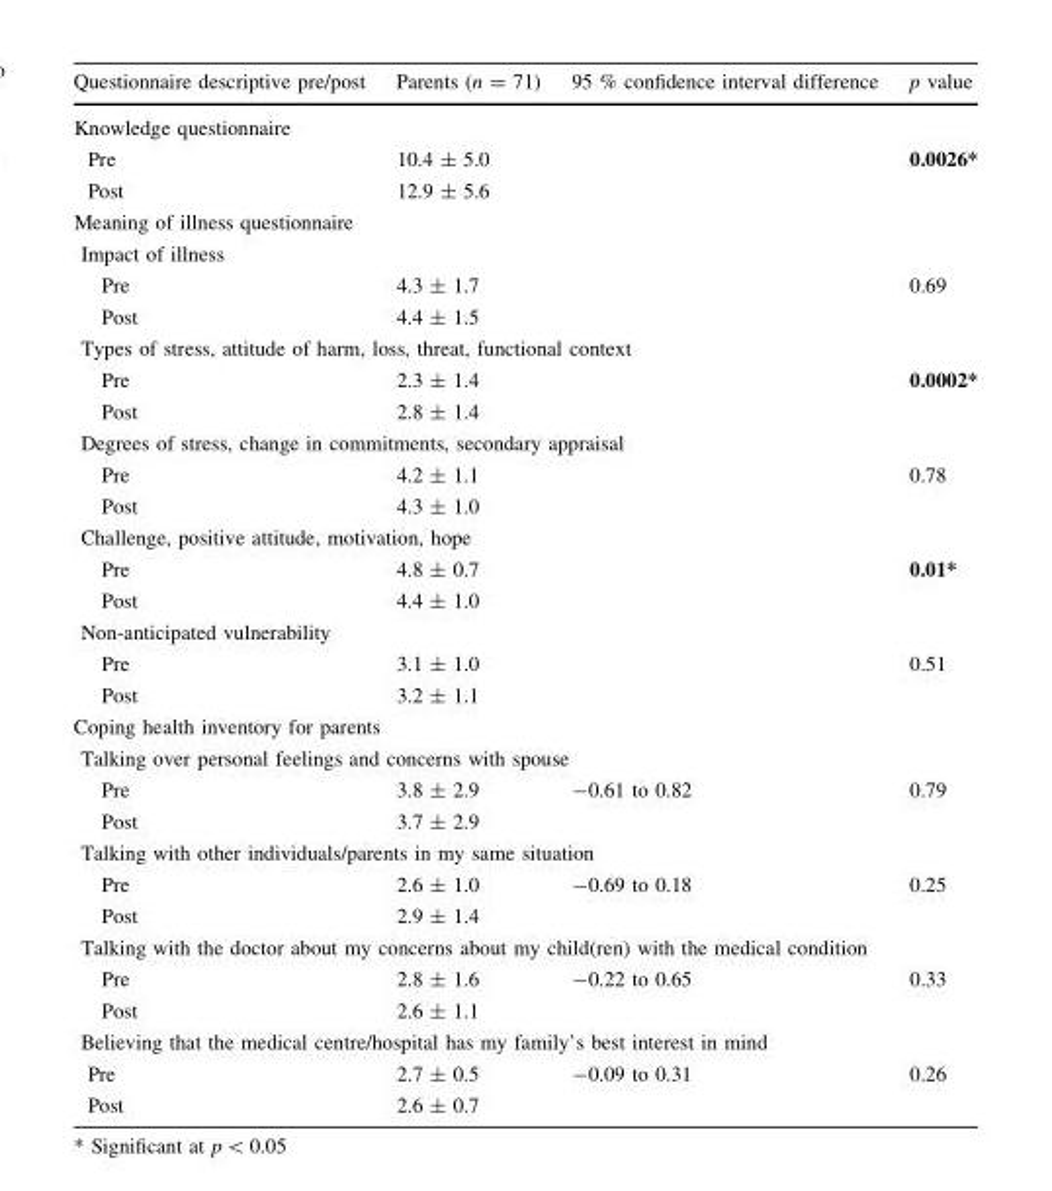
<table><thead><tr><td>Questionnaire descriptive pre/post</td><td>Parents (n = 71)</td><td>95 % confidence interval difference</td><td>p value</td></tr></thead><tbody><tr><td colspan="4">Knowledge questionnaire</td></tr><tr><td>Pre</td><td>10.4 ± 5.0</td><td rowspan="2"></td><td rowspan="2">0.0026*</td></tr><tr><td>Post</td><td>12.9 ± 5.6</td></tr><tr><td colspan="4">Meaning of illness questionnaire</td></tr><tr><td colspan="4">Impact of illness</td></tr><tr><td>Pre</td><td>4.3 ± 1.7</td><td rowspan="2"></td><td rowspan="2">0.69</td></tr><tr><td>Post</td><td>4.4 ± 1.5</td></tr><tr><td colspan="4">Types of stress, attitude of harm, loss, threat, functional context</td></tr><tr><td>Pre</td><td>2.3 ± 1.4</td><td rowspan="2"></td><td rowspan="2">0.0002*</td></tr><tr><td>Post</td><td>2.8 ± 1.4</td></tr><tr><td colspan="4">Degrees of stress, change in commitments, secondary appraisal</td></tr><tr><td>Pre</td><td>4.2 ± 1.1</td><td rowspan="2"></td><td rowspan="2">0.78</td></tr><tr><td>Post</td><td>4.3 ± 1.0</td></tr><tr><td colspan="4">Challenge, positive attitude, motivation, hope</td></tr><tr><td>Pre</td><td>4.8 ± 0.7</td><td rowspan="2"></td><td rowspan="2">0.01*</td></tr><tr><td>Post</td><td>4.4 ± 1.0</td></tr><tr><td colspan="4">Non-anticipated vulnerability</td></tr><tr><td>Pre</td><td>3.1 ± 1.0</td><td rowspan="2"></td><td rowspan="2">0.51</td></tr><tr><td>Post</td><td>3.2 ± 1.1</td></tr><tr><td colspan="4">Coping health inventory for parents</td></tr><tr><td colspan="4">Talking over personal feelings and concerns with spouse</td></tr><tr><td>Pre</td><td>3.8 ± 2.9</td><td rowspan="2">-0.61 to 0.82</td><td rowspan="2">0.79</td></tr><tr><td>Post</td><td>3.7 ± 2.9</td></tr><tr><td colspan="4">Talking with other individuals/parents in my same situation</td></tr><tr><td>Pre</td><td>2.6 ± 1.0</td><td rowspan="2">-0.69 to 0.18</td><td rowspan="2">0.25</td></tr><tr><td>Post</td><td>2.9 ± 1.4</td></tr><tr><td colspan="4">Talking with the doctor about my concerns about my child(ren) with the medical condition</td></tr><tr><td>Pre</td><td>2.8 ± 1.6</td><td rowspan="2">-0.22 to 0.65</td><td rowspan="2">0.33</td></tr><tr><td>Post</td><td>2.6 ± 1.1</td></tr><tr><td colspan="4">Believing that the medical centre/hospital has my family’s best interest in mind</td></tr><tr><td>Pre</td><td>2.7 ± 0.5</td><td rowspan="2">-0.09 to 0.31</td><td rowspan="2">0.26</td></tr><tr><td>Post</td><td>2.6 ± 0.7</td></tr></tbody></table>